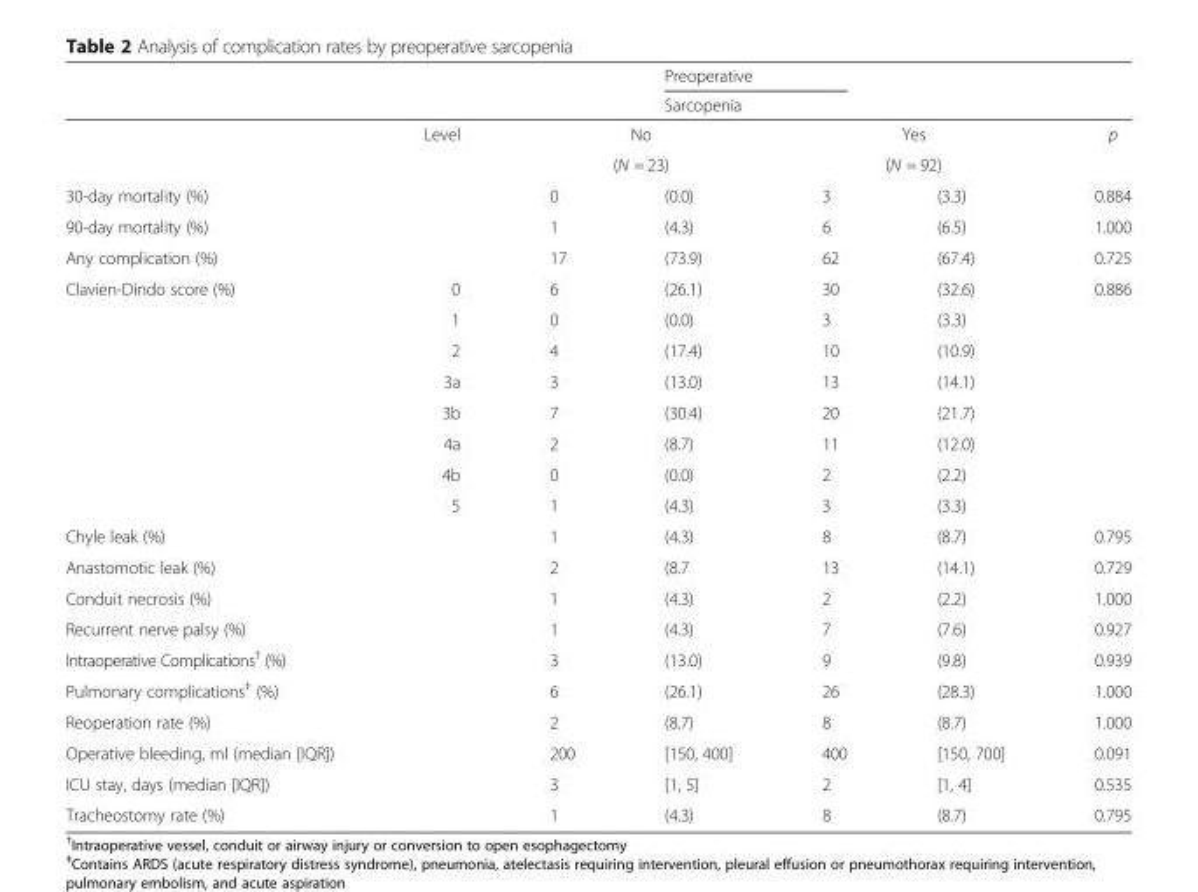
<table><thead><tr><td rowspan="5">30-day mortality (%)</td><td rowspan="5">Level</td><td rowspan="2"></td><td rowspan="2" colspan="2">Preoperative Sarcopenia</td><td rowspan="2"></td><td rowspan="5">p 0.884</td></tr><tr></tr><tr><td rowspan="2" colspan="2">No (N = 23)</td><td rowspan="2" colspan="2">Yes (N = 92)</td></tr><tr></tr><tr><td>0</td><td>(0.0)</td><td>3</td><td>(3.3)</td></tr></thead><tbody><tr><td>90-day mortality (%)</td><td></td><td>1</td><td>(4.3)</td><td>6</td><td>(6.5)</td><td>1.000</td></tr><tr><td>Any complication (%)</td><td></td><td>17</td><td>(73.9)</td><td>62</td><td>(67.4)</td><td>0.725</td></tr><tr><td rowspan="8">Clavien-Dindo score (%)</td><td>0</td><td>6</td><td>(26.1)</td><td>30</td><td>(32.6)</td><td>0.886</td></tr><tr><td>1</td><td>0</td><td>(0.0)</td><td>3</td><td>(3.3)</td><td></td></tr><tr><td>2</td><td>4</td><td>(17.4)</td><td>10</td><td>(10.9)</td><td></td></tr><tr><td>3a</td><td>3</td><td>(13.0)</td><td>13</td><td>(14.1)</td><td></td></tr><tr><td>3b</td><td>7</td><td>(30.4)</td><td>20</td><td>(21.7)</td><td></td></tr><tr><td>4a</td><td>2</td><td>(8.7)</td><td>11</td><td>(12.0)</td><td></td></tr><tr><td>4b</td><td>0</td><td>(0.0)</td><td>2</td><td>(2.2)</td><td></td></tr><tr><td>5</td><td>1</td><td>(4.3)</td><td>3</td><td>(3.3)</td><td></td></tr><tr><td>Chyle leak (%)</td><td></td><td>1</td><td>(4.3)</td><td>8</td><td>(8.7)</td><td>0.795</td></tr><tr><td>Anastomotic leak (%)</td><td></td><td>2</td><td>(8.7</td><td>13</td><td>(14.1)</td><td>0.729</td></tr><tr><td>Conduit necrosis (%)</td><td></td><td>1</td><td>(4.3)</td><td>2</td><td>(2.2)</td><td>1.000</td></tr><tr><td>Recurrent nerve palsy (%)</td><td></td><td>1</td><td>(4.3)</td><td>7</td><td>(7.6)</td><td>0.927</td></tr><tr><td>Intraoperative Complications<sup>†</sup> (%)</td><td></td><td>3</td><td>(13.0)</td><td>9</td><td>(9.8)</td><td>0.939</td></tr><tr><td>Pulmonary complications<sup>‡</sup> (%)</td><td></td><td>6</td><td>(26.1)</td><td>26</td><td>(28.3)</td><td>1.000</td></tr><tr><td>Reoperation rate (%)</td><td></td><td>2</td><td>(8.7)</td><td>8</td><td>(8.7)</td><td>1.000</td></tr><tr><td>Operative bleeding, ml (median [IQR])</td><td></td><td>200</td><td>[150, 400]</td><td>400</td><td>[150, 700]</td><td>0.091</td></tr><tr><td>ICU stay, days (median [IQR])</td><td></td><td>3</td><td>[1, 5]</td><td>2</td><td>[1, 4]</td><td>0.535</td></tr><tr><td>Tracheostomy rate (%)</td><td></td><td>1</td><td>(4.3)</td><td>8</td><td>(8.7)</td><td>0.795</td></tr></tbody></table>